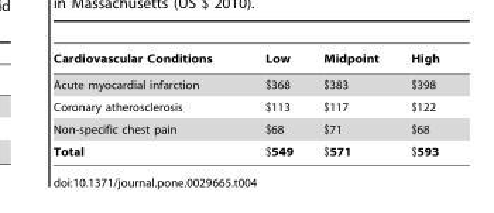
<table><thead><tr><td>Cardiovascular Conditions</td><td>Low</td><td>Midpoint</td><td>High</td></tr></thead><tbody><tr><td>Acute myocardial infarction</td><td>$368</td><td>$383</td><td>$398</td></tr><tr><td>Coronary atherosclerosis</td><td>$113</td><td>$117</td><td>$122</td></tr><tr><td>Non-specific chest pain</td><td>$68</td><td>$71</td><td>$68</td></tr><tr><td>Total</td><td>$549</td><td>$571</td><td>$593</td></tr></tbody></table>